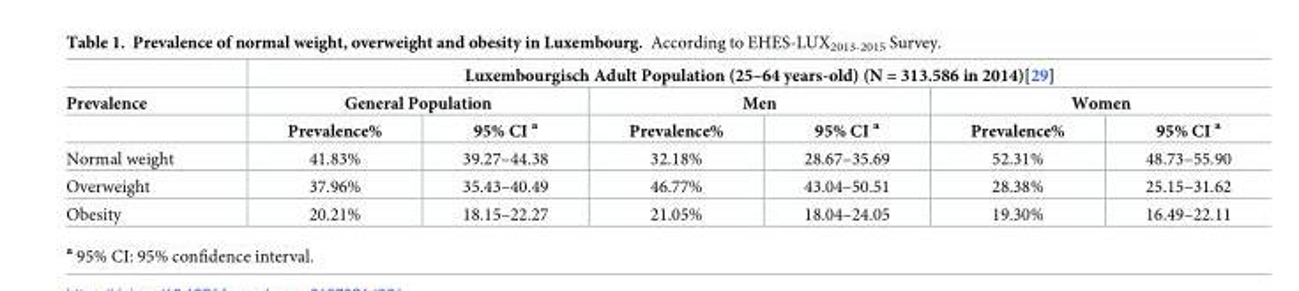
<table><thead><tr><td rowspan="3">Prevalence</td><td colspan="6">Luxembourgisch Adult Population (25–64 years-old) (N = 313.586 in 2014)[29]</td></tr><tr><td colspan="2">General Population</td><td colspan="2">Men</td><td colspan="2">Women</td></tr><tr><td>Prevalence%</td><td>95% CI <sup>a</sup></td><td>Prevalence%</td><td>95% CI <sup>a</sup></td><td>Prevalence%</td><td>95% CI <sup>a</sup></td></tr></thead><tbody><tr><td>Normal weight</td><td>41.83%</td><td>39.27–44.38</td><td>32.18%</td><td>28.67–35.69</td><td>52.31%</td><td>48.73–55.90</td></tr><tr><td>Overweight</td><td>37.96%</td><td>35.43–40.49</td><td>46.77%</td><td>43.04–50.51</td><td>28.38%</td><td>25.15–31.62</td></tr><tr><td>Obesity</td><td>20.21%</td><td>18.15–22.27</td><td>21.05%</td><td>18.04–24.05</td><td>19.30%</td><td>16.49–22.11</td></tr></tbody></table>